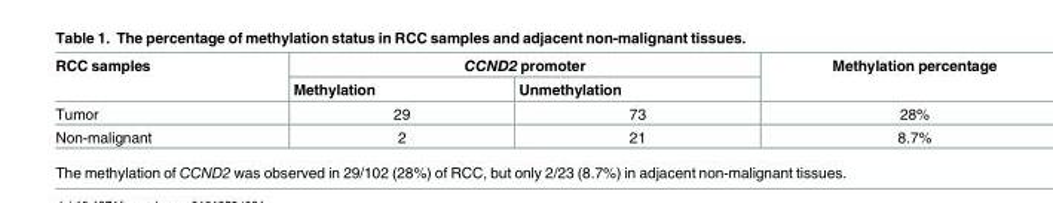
<table><thead><tr><td rowspan="2">RCC samples</td><td colspan="2">CCND2 promoter</td><td rowspan="2">Methylation percentage</td></tr><tr><td>Methylation</td><td>Unmethylation</td></tr></thead><tbody><tr><td>Tumor</td><td>29</td><td>73</td><td>28%</td></tr><tr><td>Non-malignant</td><td>2</td><td>21</td><td>8.7%</td></tr></tbody></table>